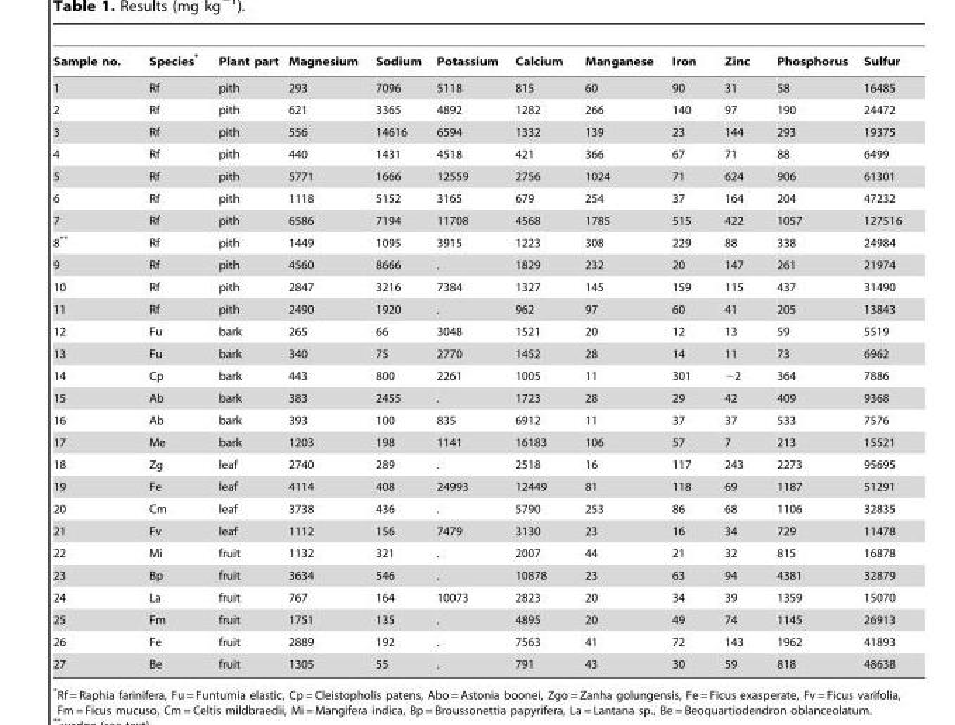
<table><thead><tr><td>Sample no.</td><td>Species*</td><td>Plant part</td><td>Magnesium</td><td>Sodium</td><td>Potassium</td><td>Calcium</td><td>Manganese</td><td>Iron</td><td>Zinc</td><td>Phosphorus</td><td>Sulfur</td></tr></thead><tbody><tr><td>1</td><td>Rf</td><td>pith</td><td>293</td><td>7096</td><td>5118</td><td>815</td><td>60</td><td>90</td><td>31</td><td>58</td><td>16485</td></tr><tr><td>2</td><td>Rf</td><td>pith</td><td>621</td><td>3365</td><td>4892</td><td>1282</td><td>266</td><td>140</td><td>97</td><td>190</td><td>24472</td></tr><tr><td>3</td><td>Rf</td><td>pith</td><td>556</td><td>14616</td><td>6594</td><td>1332</td><td>139</td><td>23</td><td>144</td><td>293</td><td>19375</td></tr><tr><td>4</td><td>Rf</td><td>pith</td><td>440</td><td>1431</td><td>4518</td><td>421</td><td>366</td><td>67</td><td>71</td><td>88</td><td>6499</td></tr><tr><td>5</td><td>Rf</td><td>pith</td><td>5771</td><td>1666</td><td>12559</td><td>2756</td><td>1024</td><td>71</td><td>624</td><td>906</td><td>61301</td></tr><tr><td>6</td><td>Rf</td><td>pith</td><td>1118</td><td>5152</td><td>3165</td><td>679</td><td>254</td><td>37</td><td>164</td><td>204</td><td>47232</td></tr><tr><td>7</td><td>Rf</td><td>pith</td><td>6586</td><td>7194</td><td>11708</td><td>4568</td><td>1785</td><td>515</td><td>422</td><td>1057</td><td>127516</td></tr><tr><td>8**</td><td>Rf</td><td>pith</td><td>1449</td><td>1095</td><td>3915</td><td>1223</td><td>308</td><td>229</td><td>88</td><td>338</td><td>24984</td></tr><tr><td>9</td><td>Rf</td><td>pith</td><td>4560</td><td>8666</td><td>.</td><td>1829</td><td>232</td><td>20</td><td>147</td><td>261</td><td>21974</td></tr><tr><td>10</td><td>Rf</td><td>pith</td><td>2847</td><td>3216</td><td>7384</td><td>1327</td><td>145</td><td>159</td><td>115</td><td>437</td><td>31490</td></tr><tr><td>11</td><td>Rf</td><td>pith</td><td>2490</td><td>1920</td><td>.</td><td>962</td><td>97</td><td>60</td><td>41</td><td>205</td><td>13843</td></tr><tr><td>12</td><td>Fu</td><td>bark</td><td>265</td><td>66</td><td>3048</td><td>1521</td><td>20</td><td>12</td><td>13</td><td>59</td><td>5519</td></tr><tr><td>13</td><td>Fu</td><td>bark</td><td>340</td><td>75</td><td>2770</td><td>1452</td><td>28</td><td>14</td><td>11</td><td>73</td><td>6962</td></tr><tr><td>14</td><td>Cp</td><td>bark</td><td>443</td><td>800</td><td>2261</td><td>1005</td><td>11</td><td>301</td><td>−2</td><td>364</td><td>7886</td></tr><tr><td>15</td><td>Ab</td><td>bark</td><td>383</td><td>2455</td><td>.</td><td>1723</td><td>28</td><td>29</td><td>42</td><td>409</td><td>9368</td></tr><tr><td>16</td><td>Ab</td><td>bark</td><td>393</td><td>100</td><td>835</td><td>6912</td><td>11</td><td>37</td><td>37</td><td>533</td><td>7576</td></tr><tr><td>17</td><td>Me</td><td>bark</td><td>1203</td><td>198</td><td>1141</td><td>16183</td><td>106</td><td>57</td><td>7</td><td>213</td><td>15521</td></tr><tr><td>18</td><td>Zg</td><td>leaf</td><td>2740</td><td>289</td><td>.</td><td>2518</td><td>16</td><td>117</td><td>243</td><td>2273</td><td>95695</td></tr><tr><td>19</td><td>Fe</td><td>leaf</td><td>4114</td><td>408</td><td>24993</td><td>12449</td><td>81</td><td>118</td><td>69</td><td>1187</td><td>51291</td></tr><tr><td>20</td><td>Cm</td><td>leaf</td><td>3738</td><td>436</td><td>.</td><td>5790</td><td>253</td><td>86</td><td>68</td><td>1106</td><td>32835</td></tr><tr><td>21</td><td>Fv</td><td>leaf</td><td>1112</td><td>156</td><td>7479</td><td>3130</td><td>23</td><td>16</td><td>34</td><td>729</td><td>11478</td></tr><tr><td>22</td><td>Mi</td><td>fruit</td><td>1132</td><td>321</td><td>.</td><td>2007</td><td>44</td><td>21</td><td>32</td><td>815</td><td>16878</td></tr><tr><td>23</td><td>Bp</td><td>fruit</td><td>3634</td><td>546</td><td>.</td><td>10878</td><td>23</td><td>63</td><td>94</td><td>4381</td><td>32879</td></tr><tr><td>24</td><td>La</td><td>fruit</td><td>767</td><td>164</td><td>10073</td><td>2823</td><td>20</td><td>34</td><td>39</td><td>1359</td><td>15070</td></tr><tr><td>25</td><td>Fm</td><td>fruit</td><td>1751</td><td>135</td><td>.</td><td>4895</td><td>20</td><td>49</td><td>74</td><td>1145</td><td>26913</td></tr><tr><td>26</td><td>Fe</td><td>fruit</td><td>2889</td><td>192</td><td>.</td><td>7563</td><td>41</td><td>72</td><td>143</td><td>1962</td><td>41893</td></tr><tr><td>27</td><td>Be</td><td>fruit</td><td>1305</td><td>55</td><td>.</td><td>791</td><td>43</td><td>30</td><td>59</td><td>818</td><td>48638</td></tr></tbody></table>